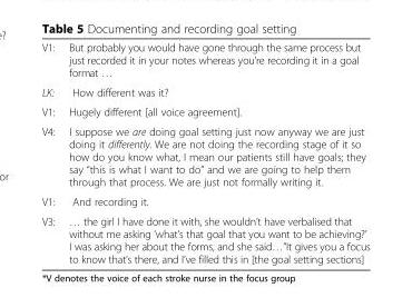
<table><tbody><tr><td>V1:</td><td>But probably you would have gone through the same process but just recorded it in your notes whereas you’re recording it in a goal format …</td></tr><tr><td>LK:</td><td>How different was it?</td></tr><tr><td>V1:</td><td>Hugely different [all voice agreement].</td></tr><tr><td>V4:</td><td>I suppose we are doing goal setting just now anyway we are just doing it differently. We are not doing the recording stage of it so how do you know what, I mean our patients still have goals; they say “this is what I want to do” and we are going to help them through that process. We are just not formally writing it.</td></tr><tr><td>V1:</td><td>And recording it.</td></tr><tr><td>V3:</td><td>… the girl I have done it with, she wouldn’t have verbalised that without me asking ‘what’s that goal that you want to be achieving?’ I was asking her about the forms, and she said…”It gives you a focus to know that’s there, and I’ve filled this in [the goal setting sections]</td></tr></tbody></table>